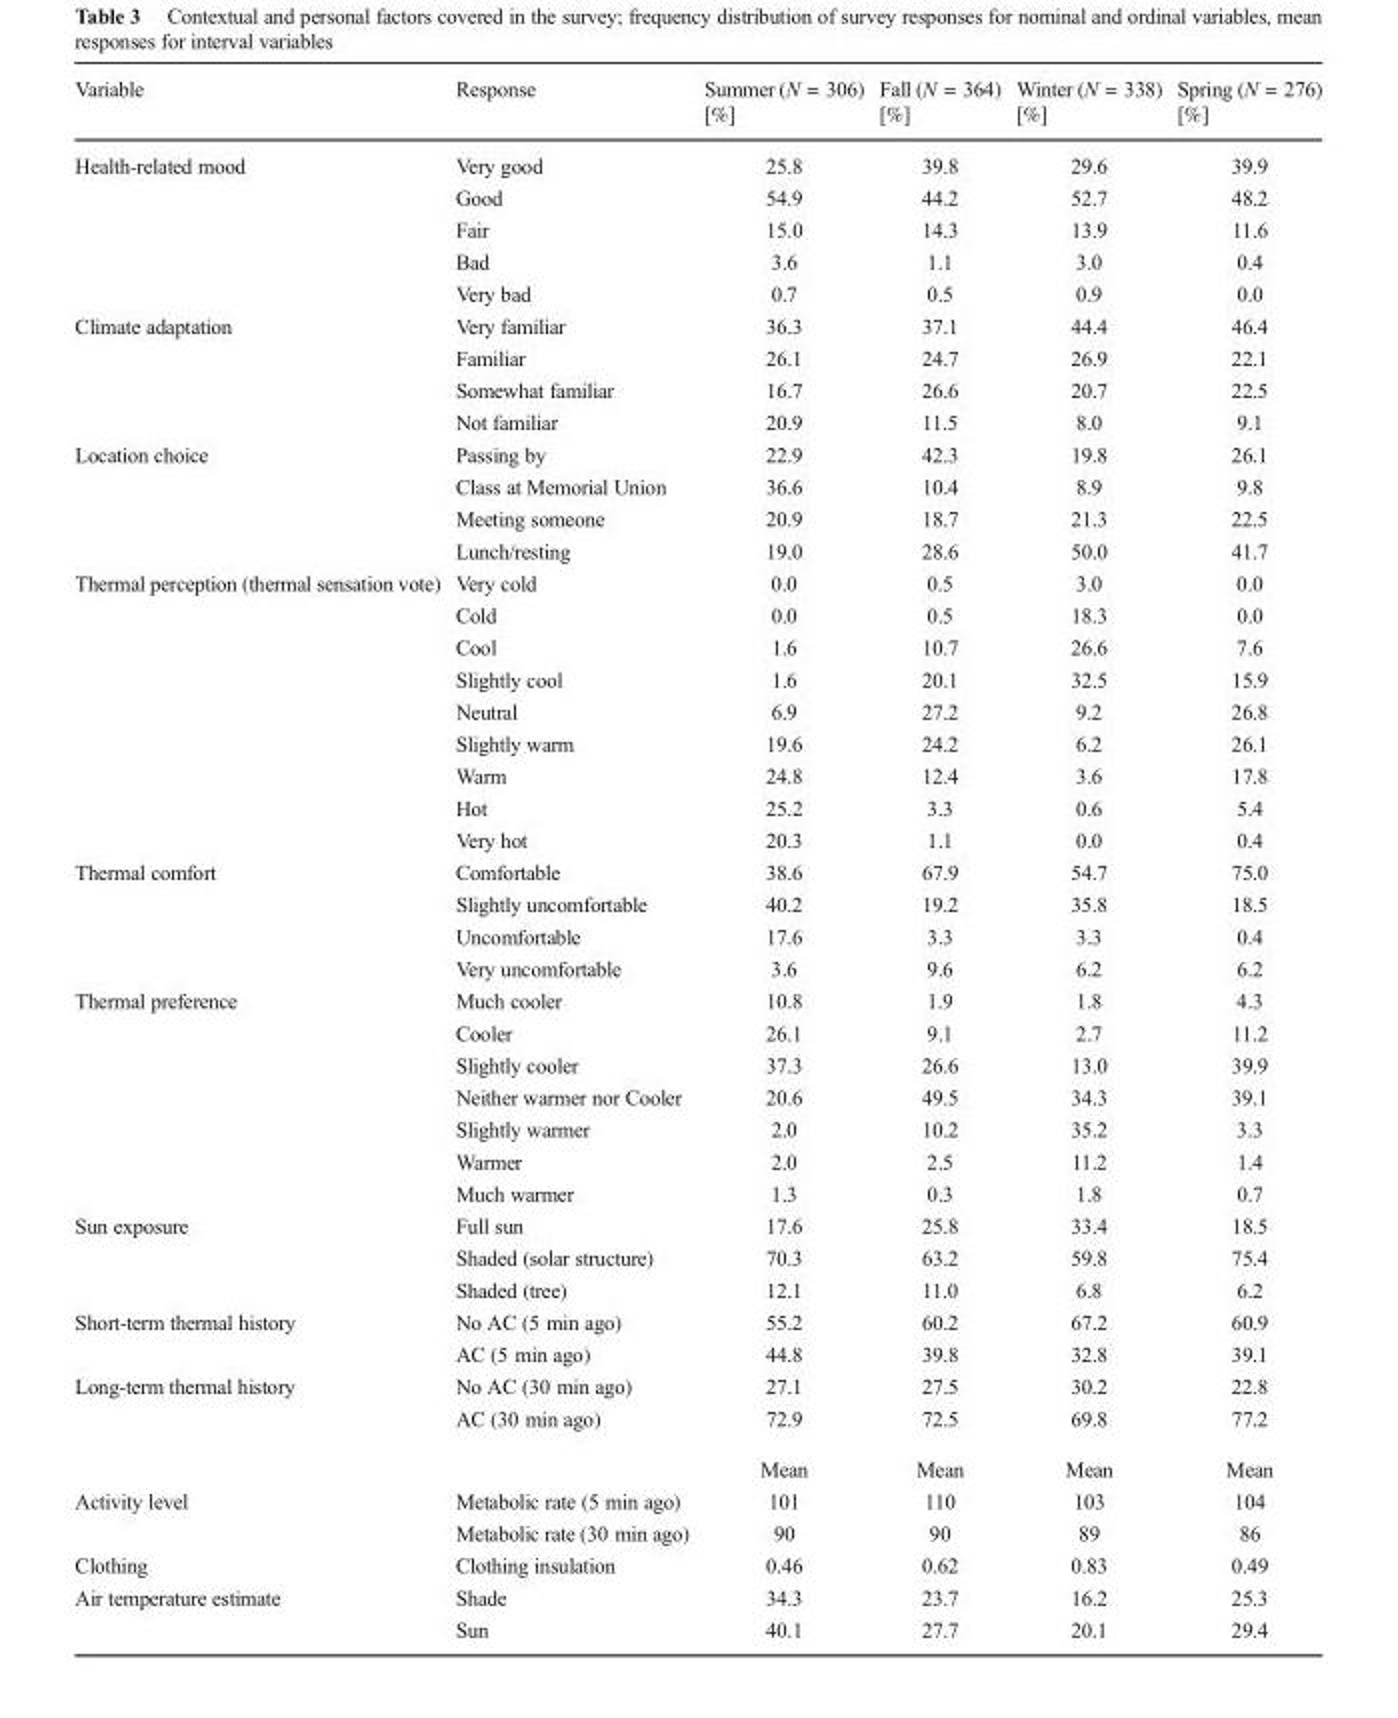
<table><thead><tr><td rowspan="2">Variable</td><td rowspan="2">Response</td><td rowspan="2">Summer (N = 306) [%]</td><td rowspan="2">Fall (N = 364) [%]</td><td rowspan="2">Winter (N = 338) [%]</td><td rowspan="2">Spring (N = 276) [%]</td></tr><tr></tr></thead><tbody><tr><td rowspan="5">Health-related mood</td><td>Very good</td><td>25.8</td><td>39.8</td><td>29.6</td><td>39.9</td></tr><tr><td>Good</td><td>54.9</td><td>44.2</td><td>52.7</td><td>48.2</td></tr><tr><td>Fair</td><td>15.0</td><td>14.3</td><td>13.9</td><td>11.6</td></tr><tr><td>Bad</td><td>3.6</td><td>1.1</td><td>3.0</td><td>0.4</td></tr><tr><td>Very bad</td><td>0.7</td><td>0.5</td><td>0.9</td><td>0.0</td></tr><tr><td rowspan="4">Climate adaptation</td><td>Very familiar</td><td>36.3</td><td>37.1</td><td>44.4</td><td>46.4</td></tr><tr><td>Familiar</td><td>26.1</td><td>24.7</td><td>26.9</td><td>22.1</td></tr><tr><td>Somewhat familiar</td><td>16.7</td><td>26.6</td><td>20.7</td><td>22.5</td></tr><tr><td>Not familiar</td><td>20.9</td><td>11.5</td><td>8.0</td><td>9.1</td></tr><tr><td rowspan="4">Location choice</td><td>Passing by</td><td>22.9</td><td>42.3</td><td>19.8</td><td>26.1</td></tr><tr><td>Class at Memorial Union</td><td>36.6</td><td>10.4</td><td>8.9</td><td>9.8</td></tr><tr><td>Meeting someone</td><td>20.9</td><td>18.7</td><td>21.3</td><td>22.5</td></tr><tr><td>Lunch/resting</td><td>19.0</td><td>28.6</td><td>50.0</td><td>41.7</td></tr><tr><td rowspan="9">Thermal perception (thermal sensation vote)</td><td>Very cold</td><td>0.0</td><td>0.5</td><td>3.0</td><td>0.0</td></tr><tr><td>Cold</td><td>0.0</td><td>0.5</td><td>18.3</td><td>0.0</td></tr><tr><td>Cool</td><td>1.6</td><td>10.7</td><td>26.6</td><td>7.6</td></tr><tr><td>Slightly cool</td><td>1.6</td><td>20.1</td><td>32.5</td><td>15.9</td></tr><tr><td>Neutral</td><td>6.9</td><td>27.2</td><td>9.2</td><td>26.8</td></tr><tr><td>Slightly warm</td><td>19.6</td><td>24.2</td><td>6.2</td><td>26.1</td></tr><tr><td>Warm</td><td>24.8</td><td>12.4</td><td>3.6</td><td>17.8</td></tr><tr><td>Hot</td><td>25.2</td><td>3.3</td><td>0.6</td><td>5.4</td></tr><tr><td>Very hot</td><td>20.3</td><td>1.1</td><td>0.0</td><td>0.4</td></tr><tr><td rowspan="4">Thermal comfort</td><td>Comfortable</td><td>38.6</td><td>67.9</td><td>54.7</td><td>75.0</td></tr><tr><td>Slightly uncomfortable</td><td>40.2</td><td>19.2</td><td>35.8</td><td>18.5</td></tr><tr><td>Uncomfortable</td><td>17.6</td><td>3.3</td><td>3.3</td><td>0.4</td></tr><tr><td>Very uncomfortable</td><td>3.6</td><td>9.6</td><td>6.2</td><td>6.2</td></tr><tr><td rowspan="7">Thermal preference</td><td>Much cooler</td><td>10.8</td><td>1.9</td><td>1.8</td><td>4.3</td></tr><tr><td>Cooler</td><td>26.1</td><td>9.1</td><td>2.7</td><td>11.2</td></tr><tr><td>Slightly cooler</td><td>37.3</td><td>26.6</td><td>13.0</td><td>39.9</td></tr><tr><td>Neither warmer nor Cooler</td><td>20.6</td><td>49.5</td><td>34.3</td><td>39.1</td></tr><tr><td>Slightly warmer</td><td>2.0</td><td>10.2</td><td>35.2</td><td>3.3</td></tr><tr><td>Warmer</td><td>2.0</td><td>2.5</td><td>11.2</td><td>1.4</td></tr><tr><td>Much warmer</td><td>1.3</td><td>0.3</td><td>1.8</td><td>0.7</td></tr><tr><td rowspan="3">Sun exposure</td><td>Full sun</td><td>17.6</td><td>25.8</td><td>33.4</td><td>18.5</td></tr><tr><td>Shaded (solar structure)</td><td>70.3</td><td>63.2</td><td>59.8</td><td>75.4</td></tr><tr><td>Shaded (tree)</td><td>12.1</td><td>11.0</td><td>6.8</td><td>6.2</td></tr><tr><td rowspan="2">Short-term thermal history</td><td>No AC (5 min ago)</td><td>55.2</td><td>60.2</td><td>67.2</td><td>60.9</td></tr><tr><td>AC (5 min ago)</td><td>44.8</td><td>39.8</td><td>32.8</td><td>39.1</td></tr><tr><td rowspan="3">Long-term thermal history</td><td>No AC (30 min ago)</td><td>27.1</td><td>27.5</td><td>30.2</td><td>22.8</td></tr><tr><td>AC (30 min ago)</td><td>72.9</td><td>72.5</td><td>69.8</td><td>77.2</td></tr><tr><td></td><td>Mean</td><td>Mean</td><td>Mean</td><td>Mean</td></tr><tr><td rowspan="2">Activity level</td><td>Metabolic rate (5 min ago)</td><td>101</td><td>110</td><td>103</td><td>104</td></tr><tr><td>Metabolic rate (30 min ago)</td><td>90</td><td>90</td><td>89</td><td>86</td></tr><tr><td>Clothing</td><td>Clothing insulation</td><td>0.46</td><td>0.62</td><td>0.83</td><td>0.49</td></tr><tr><td rowspan="2">Air temperature estimate</td><td>Shade</td><td>34.3</td><td>23.7</td><td>16.2</td><td>25.3</td></tr><tr><td>Sun</td><td>40.1</td><td>27.7</td><td>20.1</td><td>29.4</td></tr></tbody></table>